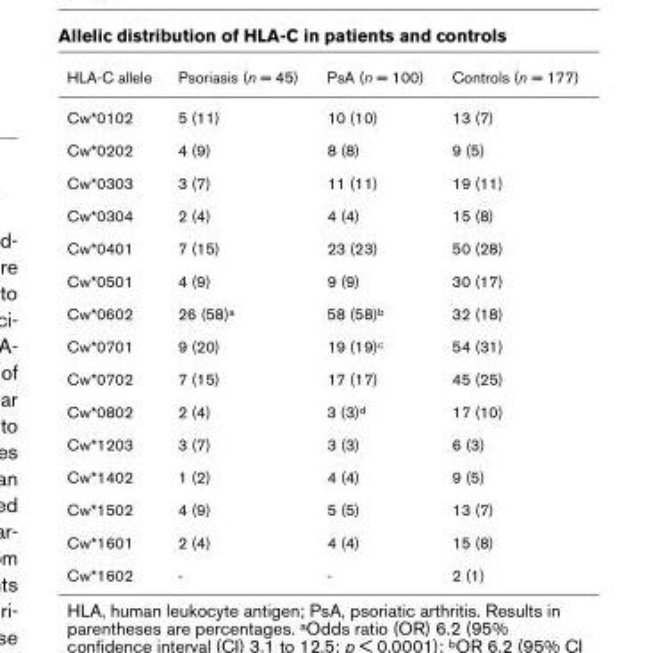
<table><thead><tr><td>HLA-C allele</td><td>Psoriasis (n = 45)</td><td>PsA (n = 100)</td><td>Controls (n = 177)</td></tr></thead><tbody><tr><td>Cw*0102</td><td>5 (11)</td><td>10 (10)</td><td>13 (7)</td></tr><tr><td>Cw*0202</td><td>4 (9)</td><td>8 (8)</td><td>9 (5)</td></tr><tr><td>Cw*0303</td><td>3 (7)</td><td>11 (11)</td><td>19 (11)</td></tr><tr><td>Cw*0304</td><td>2 (4)</td><td>4 (4)</td><td>15 (8)</td></tr><tr><td>Cw*0401</td><td>7 (15)</td><td>23 (23)</td><td>50 (28)</td></tr><tr><td>Cw*0501</td><td>4 (9)</td><td>9 (9)</td><td>30 (17)</td></tr><tr><td>Cw*0602</td><td>26 (58)a</td><td>58 (58)b</td><td>32 (18)</td></tr><tr><td>Cw*0701</td><td>9 (20)</td><td>19 (19)c</td><td>54 (31)</td></tr><tr><td>Cw*0702</td><td>7 (15)</td><td>17 (17)</td><td>45 (25)</td></tr><tr><td>Cw*0802</td><td>2 (4)</td><td>3 (3)d</td><td>17 (10)</td></tr><tr><td>Cw*1203</td><td>3 (7)</td><td>3 (3)</td><td>6 (3)</td></tr><tr><td>Cw*1402</td><td>1 (2)</td><td>4 (4)</td><td>9 (5)</td></tr><tr><td>Cw*1502</td><td>4 (9)</td><td>5 (5)</td><td>13 (7)</td></tr><tr><td>Cw*1601</td><td>2 (4)</td><td>4 (4)</td><td>15 (8)</td></tr><tr><td>Cw*1602</td><td>-</td><td>-</td><td>2 (1)</td></tr></tbody></table>